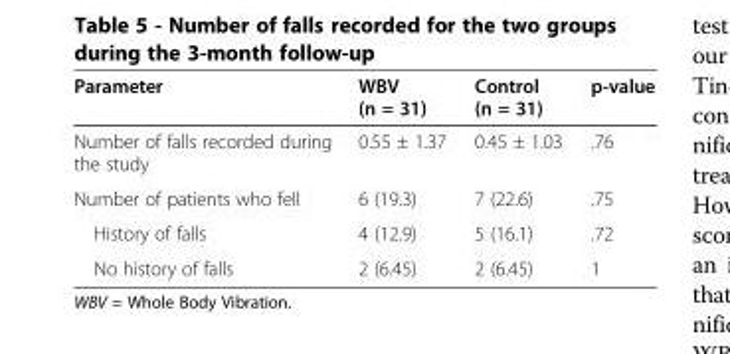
<table><thead><tr><td>Parameter</td><td>WBV (n = 31)</td><td>Control (n = 31)</td><td>p-value</td></tr></thead><tbody><tr><td>Number of falls recorded during the study</td><td>0.55 ± 1.37</td><td>0.45 ± 1.03</td><td>.76</td></tr><tr><td>Number of patients who fell</td><td>6 (19.3)</td><td>7 (22.6)</td><td>.75</td></tr><tr><td>History of falls</td><td>4 (12.9)</td><td>5 (16.1)</td><td>.72</td></tr><tr><td>No history of falls</td><td>2 (6.45)</td><td>2 (6.45)</td><td>1</td></tr></tbody></table>